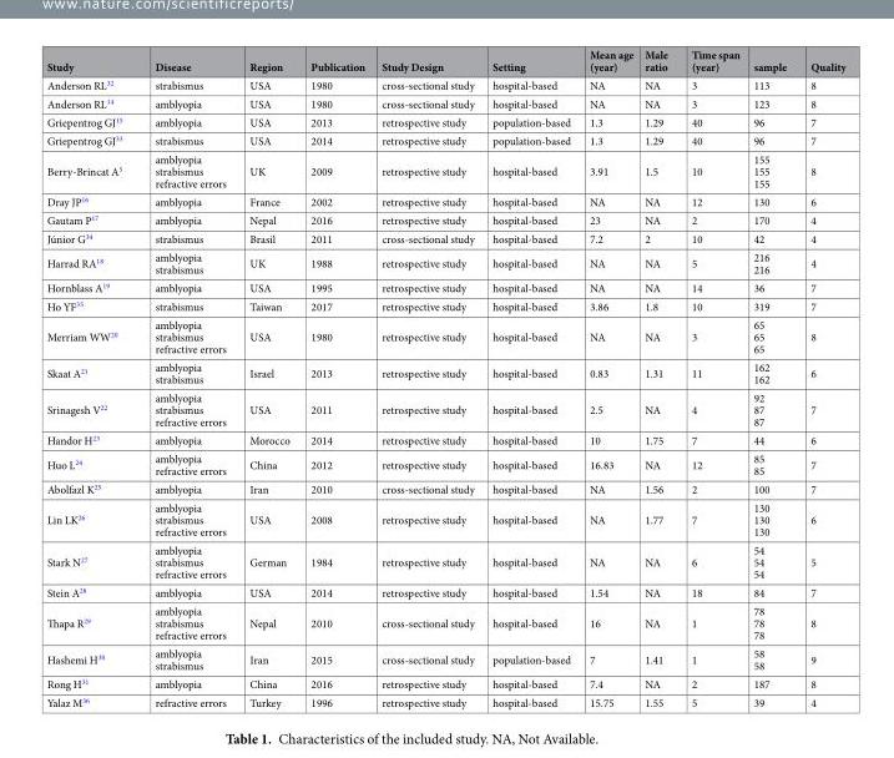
<table><thead><tr><td>Study</td><td>Disease</td><td>Region</td><td>Publication</td><td>Study Design</td><td>Setting</td><td>Mean age (year)</td><td>Male ratio</td><td>Time span (year)</td><td>sample</td><td>Quality</td></tr></thead><tbody><tr><td>Anderson RL<sup>32</sup></td><td>strabismus</td><td>USA</td><td>1980</td><td>cross-sectional study</td><td>hospital-based</td><td>NA</td><td>NA</td><td>3</td><td>113</td><td>8</td></tr><tr><td>Anderson RL<sup>14</sup></td><td>amblyopia</td><td>USA</td><td>1980</td><td>cross-sectional study</td><td>hospital-based</td><td>NA</td><td>NA</td><td>3</td><td>123</td><td>8</td></tr><tr><td>Griepentrog GJ<sup>15</sup></td><td>amblyopia</td><td>USA</td><td>2013</td><td>retrospective study</td><td>population-based</td><td>1.3</td><td>1.29</td><td>40</td><td>96</td><td>7</td></tr><tr><td>Griepentrog GJ<sup>33</sup></td><td>strabismus</td><td>USA</td><td>2014</td><td>retrospective study</td><td>population-based</td><td>1.3</td><td>1.29</td><td>40</td><td>96</td><td>7</td></tr><tr><td>Berry-Brincat A<sup>5</sup></td><td>amblyopia strabismus refractive errors</td><td>UK</td><td>2009</td><td>retrospective study</td><td>hospital-based</td><td>3.91</td><td>1.5</td><td>10</td><td>155 155 155</td><td>8</td></tr><tr><td>Dray JP<sup>16</sup></td><td>amblyopia</td><td>France</td><td>2002</td><td>retrospective study</td><td>hospital-based</td><td>NA</td><td>NA</td><td>12</td><td>130</td><td>6</td></tr><tr><td>Gautam P<sup>17</sup></td><td>amblyopia</td><td>Nepal</td><td>2016</td><td>retrospective study</td><td>hospital-based</td><td>23</td><td>NA</td><td>2</td><td>170</td><td>4</td></tr><tr><td>Júnior G<sup>34</sup></td><td>strabismus</td><td>Brasil</td><td>2011</td><td>cross-sectional study</td><td>hospital-based</td><td>7.2</td><td>2</td><td>10</td><td>42</td><td>4</td></tr><tr><td>Harrad RA<sup>18</sup></td><td>amblyopia strabismus</td><td>UK</td><td>1988</td><td>retrospective study</td><td>hospital-based</td><td>NA</td><td>NA</td><td>5</td><td>216 216</td><td>4</td></tr><tr><td>Hornblass A<sup>19</sup></td><td>amblyopia</td><td>USA</td><td>1995</td><td>retrospective study</td><td>hospital-based</td><td>NA</td><td>NA</td><td>14</td><td>36</td><td>7</td></tr><tr><td>Ho YF<sup>35</sup></td><td>strabismus</td><td>Taiwan</td><td>2017</td><td>retrospective study</td><td>hospital-based</td><td>3.86</td><td>1.8</td><td>10</td><td>319</td><td>7</td></tr><tr><td>Merriam WW<sup>20</sup></td><td>amblyopia strabismus refractive errors</td><td>USA</td><td>1980</td><td>retrospective study</td><td>hospital-based</td><td>NA</td><td>NA</td><td>3</td><td>65 65 65</td><td>8</td></tr><tr><td>Skaat A<sup>21</sup></td><td>amblyopia strabismus</td><td>Israel</td><td>2013</td><td>retrospective study</td><td>hospital-based</td><td>0.83</td><td>1.31</td><td>11</td><td>162 162</td><td>6</td></tr><tr><td>Srinagesh V<sup>22</sup></td><td>amblyopia strabismus refractive errors</td><td>USA</td><td>2011</td><td>retrospective study</td><td>hospital-based</td><td>2.5</td><td>NA</td><td>4</td><td>92 87 87</td><td>7</td></tr><tr><td>Handor H<sup>23</sup></td><td>amblyopia</td><td>Morocco</td><td>2014</td><td>retrospective study</td><td>hospital-based</td><td>10</td><td>1.75</td><td>7</td><td>44</td><td>6</td></tr><tr><td>Huo L<sup>24</sup></td><td>amblyopia refractive errors</td><td>China</td><td>2012</td><td>retrospective study</td><td>hospital-based</td><td>16.83</td><td>NA</td><td>12</td><td>85 85</td><td>7</td></tr><tr><td>Abolfazl K<sup>25</sup></td><td>amblyopia</td><td>Iran</td><td>2010</td><td>cross-sectional study</td><td>hospital-based</td><td>NA</td><td>1.56</td><td>2</td><td>100</td><td>7</td></tr><tr><td>Lin LK<sup>26</sup></td><td>amblyopia strabismus refractive errors</td><td>USA</td><td>2008</td><td>retrospective study</td><td>hospital-based</td><td>NA</td><td>1.77</td><td>7</td><td>130 130 130</td><td>6</td></tr><tr><td>Stark N<sup>27</sup></td><td>amblyopia strabismus refractive errors</td><td>German</td><td>1984</td><td>retrospective study</td><td>hospital-based</td><td>NA</td><td>NA</td><td>6</td><td>54 54 54</td><td>5</td></tr><tr><td>Stein A<sup>28</sup></td><td>amblyopia</td><td>USA</td><td>2014</td><td>retrospective study</td><td>hospital-based</td><td>1.54</td><td>NA</td><td>18</td><td>84</td><td>7</td></tr><tr><td>Thapa R<sup>29</sup></td><td>amblyopia strabismus refractive errors</td><td>Nepal</td><td>2010</td><td>cross-sectional study</td><td>hospital-based</td><td>16</td><td>NA</td><td>1</td><td>78 78 78</td><td>8</td></tr><tr><td>Hashemi H<sup>30</sup></td><td>amblyopia strabismus</td><td>Iran</td><td>2015</td><td>cross-sectional study</td><td>population-based</td><td>7</td><td>1.41</td><td>1</td><td>58 58</td><td>9</td></tr><tr><td>Rong H<sup>31</sup></td><td>amblyopia</td><td>China</td><td>2016</td><td>retrospective study</td><td>hospital-based</td><td>7.4</td><td>NA</td><td>2</td><td>187</td><td>8</td></tr><tr><td>Yalaz M<sup>36</sup></td><td>refractive errors</td><td>Turkey</td><td>1996</td><td>retrospective study</td><td>hospital-based</td><td>15.75</td><td>1.55</td><td>5</td><td>39</td><td>4</td></tr></tbody></table>